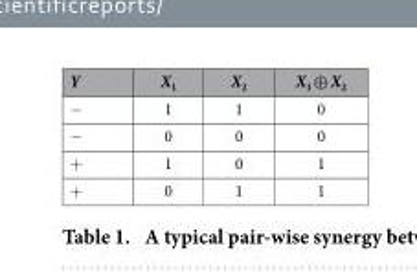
<table><thead><tr><td>Y</td><td>X<sub>1</sub></td><td>X<sub>2</sub></td><td>X<sub>1</sub> ⊕ X<sub>2</sub></td></tr></thead><tbody><tr><td>−</td><td>1</td><td>1</td><td>0</td></tr><tr><td>−</td><td>0</td><td>0</td><td>0</td></tr><tr><td>+</td><td>1</td><td>0</td><td>1</td></tr><tr><td>+</td><td>0</td><td>1</td><td>1</td></tr></tbody></table>